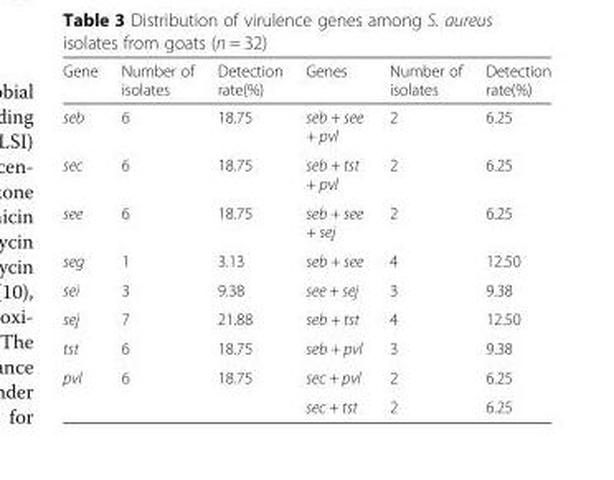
<table><thead><tr><td>Gene</td><td>Number of isolates</td><td>Detection rate(%)</td><td>Genes</td><td>Number of isolates</td><td>Detection rate(%)</td></tr></thead><tbody><tr><td>seb</td><td>6</td><td>18.75</td><td>seb + see + pvl</td><td>2</td><td>6.25</td></tr><tr><td>sec</td><td>6</td><td>18.75</td><td>seb + tst + pvl</td><td>2</td><td>6.25</td></tr><tr><td>see</td><td>6</td><td>18.75</td><td>seb + see + sej</td><td>2</td><td>6.25</td></tr><tr><td>seg</td><td>1</td><td>3.13</td><td>seb + see</td><td>4</td><td>12.50</td></tr><tr><td>sei</td><td>3</td><td>9.38</td><td>see + sej</td><td>3</td><td>9.38</td></tr><tr><td>sej</td><td>7</td><td>21.88</td><td>seb + tst</td><td>4</td><td>12.50</td></tr><tr><td>tst</td><td>6</td><td>18.75</td><td>seb + pvl</td><td>3</td><td>9.38</td></tr><tr><td rowspan="2">pvl</td><td>6</td><td>18.75</td><td>sec + pvl</td><td>2</td><td>6.25</td></tr><tr><td></td><td></td><td>sec + tst</td><td>2</td><td>6.25</td></tr></tbody></table>